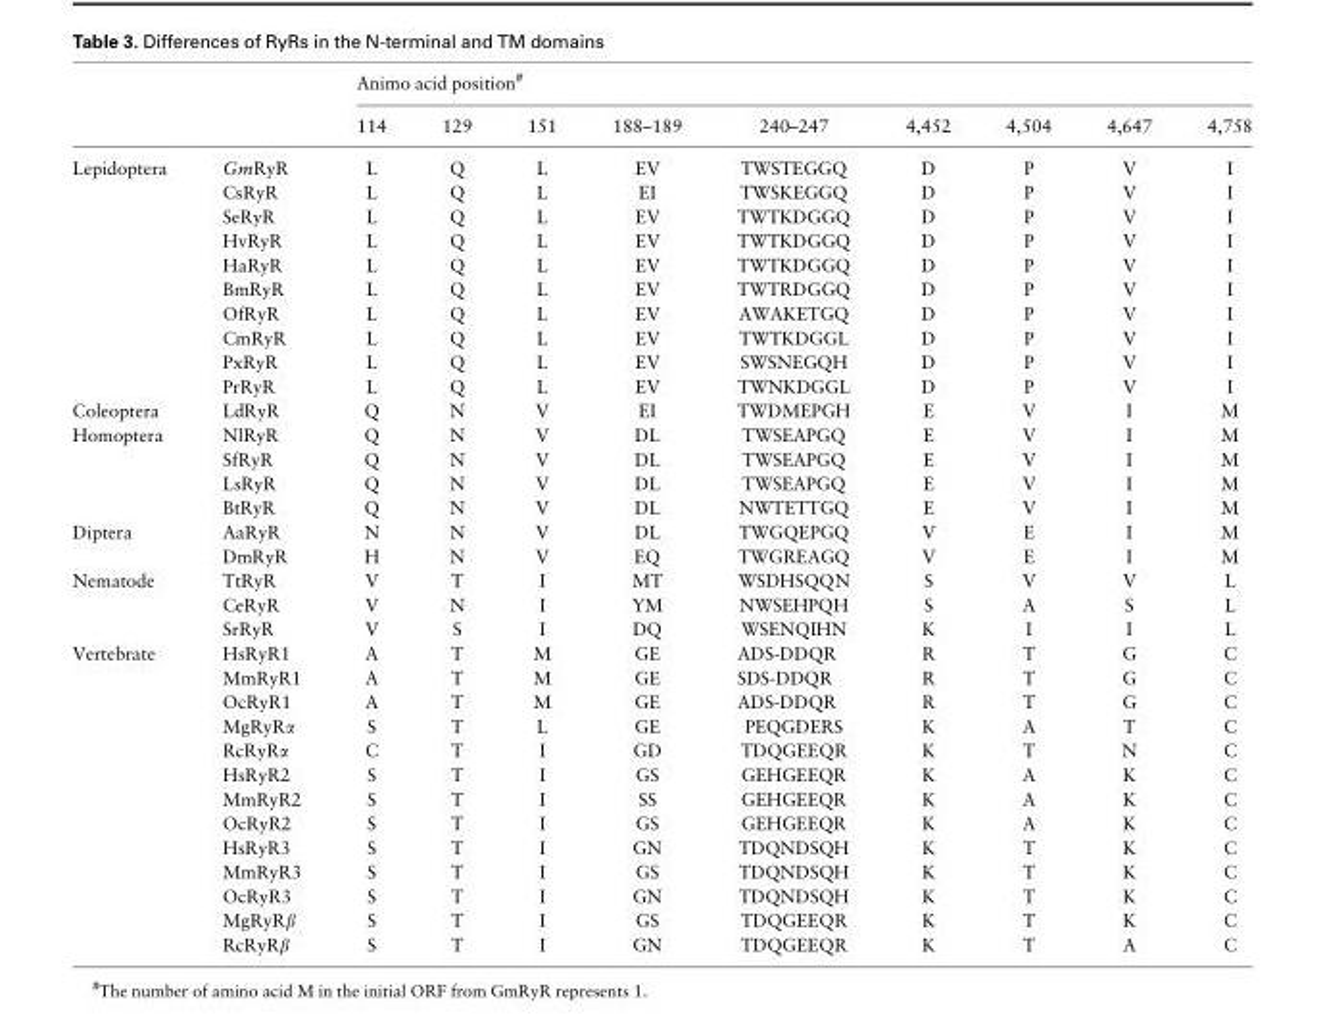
<table><thead><tr><td rowspan="2"></td><td rowspan="2"></td><td colspan="9">Animo acid position<sup>#</sup></td></tr><tr><td>114</td><td>129</td><td>151</td><td>188–189</td><td>240–247</td><td>4,452</td><td>4,504</td><td>4,647</td><td>4,758</td></tr></thead><tbody><tr><td rowspan="10">Lepidoptera</td><td>GmRyR</td><td>L</td><td>Q</td><td>L</td><td>EV</td><td>TWSTEGGQ</td><td>D</td><td>P</td><td>V</td><td>I</td></tr><tr><td>CsRyR</td><td>L</td><td>Q</td><td>L</td><td>EI</td><td>TWSKEGGQ</td><td>D</td><td>P</td><td>V</td><td>I</td></tr><tr><td>SeRyR</td><td>L</td><td>Q</td><td>L</td><td>EV</td><td>TWTKDGGQ</td><td>D</td><td>P</td><td>V</td><td>I</td></tr><tr><td>HvRyR</td><td>L</td><td>Q</td><td>L</td><td>EV</td><td>TWTKDGGQ</td><td>D</td><td>P</td><td>V</td><td>I</td></tr><tr><td>HaRyR</td><td>L</td><td>Q</td><td>L</td><td>EV</td><td>TWTKDGGQ</td><td>D</td><td>P</td><td>V</td><td>I</td></tr><tr><td>BmRyR</td><td>L</td><td>Q</td><td>L</td><td>EV</td><td>TWTRDGGQ</td><td>D</td><td>P</td><td>V</td><td>I</td></tr><tr><td>OfRyR</td><td>L</td><td>Q</td><td>L</td><td>EV</td><td>AWAKETGQ</td><td>D</td><td>P</td><td>V</td><td>I</td></tr><tr><td>CmRyR</td><td>L</td><td>Q</td><td>L</td><td>EV</td><td>TWTKDGGL</td><td>D</td><td>P</td><td>V</td><td>I</td></tr><tr><td>PxRyR</td><td>L</td><td>Q</td><td>L</td><td>EV</td><td>SWSNEGQH</td><td>D</td><td>P</td><td>V</td><td>I</td></tr><tr><td>PrRyR</td><td>L</td><td>Q</td><td>L</td><td>EV</td><td>TWNKDGGL</td><td>D</td><td>P</td><td>V</td><td>I</td></tr><tr><td>Coleoptera</td><td>LdRyR</td><td>Q</td><td>N</td><td>V</td><td>EI</td><td>TWDMEPGH</td><td>E</td><td>V</td><td>I</td><td>M</td></tr><tr><td rowspan="4">Homoptera</td><td>NlRyR</td><td>Q</td><td>N</td><td>V</td><td>DL</td><td>TWSEAPGQ</td><td>E</td><td>V</td><td>I</td><td>M</td></tr><tr><td>SfRyR</td><td>Q</td><td>N</td><td>V</td><td>DL</td><td>TWSEAPGQ</td><td>E</td><td>V</td><td>I</td><td>M</td></tr><tr><td>LsRyR</td><td>Q</td><td>N</td><td>V</td><td>DL</td><td>TWSEAPGQ</td><td>E</td><td>V</td><td>I</td><td>M</td></tr><tr><td>BtRyR</td><td>Q</td><td>N</td><td>V</td><td>DL</td><td>NWTETTGQ</td><td>E</td><td>V</td><td>I</td><td>M</td></tr><tr><td rowspan="2">Diptera</td><td>AaRyR</td><td>N</td><td>N</td><td>V</td><td>DL</td><td>TWGQEPGQ</td><td>V</td><td>E</td><td>I</td><td>M</td></tr><tr><td>DmRyR</td><td>H</td><td>N</td><td>V</td><td>EQ</td><td>TWGREAGQ</td><td>V</td><td>E</td><td>I</td><td>M</td></tr><tr><td rowspan="3">Nematode</td><td>TtRyR</td><td>V</td><td>T</td><td>I</td><td>MT</td><td>WSDHSQQN</td><td>S</td><td>V</td><td>V</td><td>L</td></tr><tr><td>CeRyR</td><td>V</td><td>N</td><td>I</td><td>YM</td><td>NWSEHPQH</td><td>S</td><td>A</td><td>S</td><td>L</td></tr><tr><td>SrRyR</td><td>V</td><td>S</td><td>I</td><td>DQ</td><td>WSENQIHN</td><td>K</td><td>I</td><td>I</td><td>L</td></tr><tr><td rowspan="13">Vertebrate</td><td>HsRyR1</td><td>A</td><td>T</td><td>M</td><td>GE</td><td>ADS-DDQR</td><td>R</td><td>T</td><td>G</td><td>C</td></tr><tr><td>MmRyR1</td><td>A</td><td>T</td><td>M</td><td>GE</td><td>SDS-DDQR</td><td>R</td><td>T</td><td>G</td><td>C</td></tr><tr><td>OcRyR1</td><td>A</td><td>T</td><td>M</td><td>GE</td><td>ADS-DDQR</td><td>R</td><td>T</td><td>G</td><td>C</td></tr><tr><td>MgRyRα</td><td>S</td><td>T</td><td>L</td><td>GE</td><td>PEQGDERS</td><td>K</td><td>A</td><td>T</td><td>C</td></tr><tr><td>RcRyRα</td><td>C</td><td>T</td><td>I</td><td>GD</td><td>TDQGEEQR</td><td>K</td><td>T</td><td>N</td><td>C</td></tr><tr><td>HsRyR2</td><td>S</td><td>T</td><td>I</td><td>GS</td><td>GEHGEEQR</td><td>K</td><td>A</td><td>K</td><td>C</td></tr><tr><td>MmRyR2</td><td>S</td><td>T</td><td>I</td><td>SS</td><td>GEHGEEQR</td><td>K</td><td>A</td><td>K</td><td>C</td></tr><tr><td>OcRyR2</td><td>S</td><td>T</td><td>I</td><td>GS</td><td>GEHGEEQR</td><td>K</td><td>A</td><td>K</td><td>C</td></tr><tr><td>HsRyR3</td><td>S</td><td>T</td><td>I</td><td>GN</td><td>TDQNDSQH</td><td>K</td><td>T</td><td>K</td><td>C</td></tr><tr><td>MmRyR3</td><td>S</td><td>T</td><td>I</td><td>GS</td><td>TDQNDSQH</td><td>K</td><td>T</td><td>K</td><td>C</td></tr><tr><td>OcRyR3</td><td>S</td><td>T</td><td>I</td><td>GN</td><td>TDQNDSQH</td><td>K</td><td>T</td><td>K</td><td>C</td></tr><tr><td>MgRyRβ</td><td>S</td><td>T</td><td>I</td><td>GS</td><td>TDQGEEQR</td><td>K</td><td>T</td><td>K</td><td>C</td></tr><tr><td>RcRyRβ</td><td>S</td><td>T</td><td>I</td><td>GN</td><td>TDQGEEQR</td><td>K</td><td>T</td><td>A</td><td>C</td></tr></tbody></table>